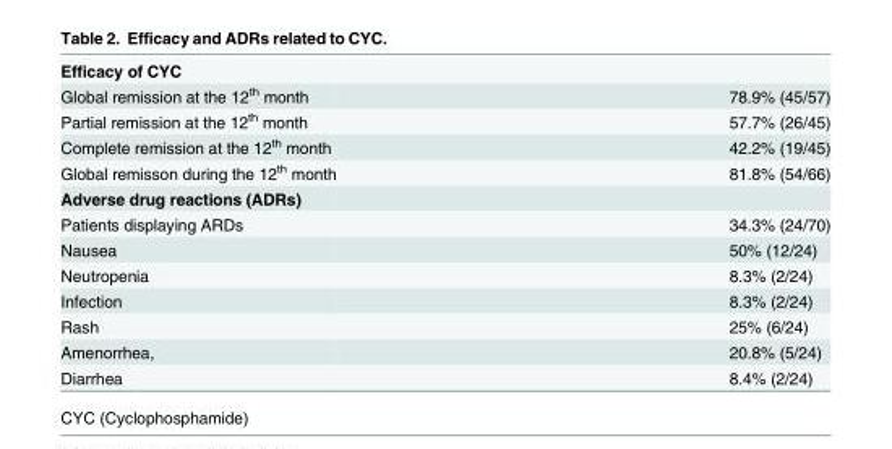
<table><tbody><tr><td colspan="2">Efficacy of CYC</td></tr><tr><td>Global remission at the 12<sup>th</sup> month</td><td>78.9% (45/57)</td></tr><tr><td>Partial remission at the 12<sup>th</sup> month</td><td>57.7% (26/45)</td></tr><tr><td>Complete remission at the 12<sup>th</sup> month</td><td>42.2% (19/45)</td></tr><tr><td>Global remisson during the 12<sup>th</sup> month</td><td>81.8% (54/66)</td></tr><tr><td colspan="2">Adverse drug reactions (ADRs)</td></tr><tr><td>Patients displaying ARDs</td><td>34.3% (24/70)</td></tr><tr><td>Nausea</td><td>50% (12/24)</td></tr><tr><td>Neutropenia</td><td>8.3% (2/24)</td></tr><tr><td>Infection</td><td>8.3% (2/24)</td></tr><tr><td>Rash</td><td>25% (6/24)</td></tr><tr><td>Amenorrhea,</td><td>20.8% (5/24)</td></tr><tr><td>Diarrhea</td><td>8.4% (2/24)</td></tr></tbody></table>